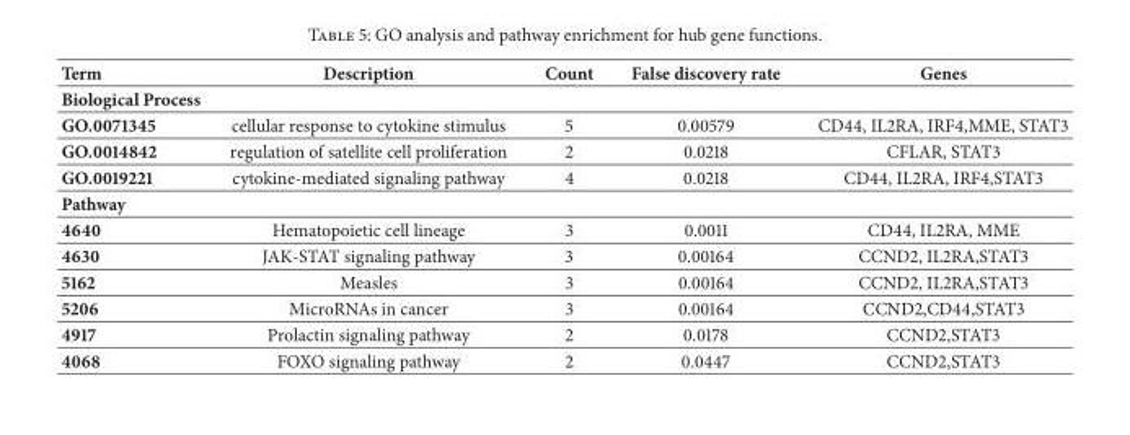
<table><thead><tr><td>Term</td><td>Description</td><td>Count</td><td>False discovery rate</td><td>Genes</td></tr></thead><tbody><tr><td colspan="5">Biological Process</td></tr><tr><td>GO.0071345</td><td>cellular response to cytokine stimulus</td><td>5</td><td>0.00579</td><td>CD44, IL2RA, IRF4,MME, STAT3</td></tr><tr><td>GO.0014842</td><td>regulation of satellite cell proliferation</td><td>2</td><td>0.0218</td><td>CFLAR, STAT3</td></tr><tr><td>GO.0019221</td><td>cytokine-mediated signaling pathway</td><td>4</td><td>0.0218</td><td>CD44, IL2RA, IRF4,STAT3</td></tr><tr><td colspan="5">Pathway</td></tr><tr><td>4640</td><td>Hematopoietic cell lineage</td><td>3</td><td>0.0011</td><td>CD44, IL2RA, MME</td></tr><tr><td>4630</td><td>JAK-STAT signaling pathway</td><td>3</td><td>0.00164</td><td>CCND2, IL2RA,STAT3</td></tr><tr><td>5162</td><td>Measles</td><td>3</td><td>0.00164</td><td>CCND2, IL2RA,STAT3</td></tr><tr><td>5206</td><td>MicroRNAs in cancer</td><td>3</td><td>0.00164</td><td>CCND2,CD44,STAT3</td></tr><tr><td>4917</td><td>Prolactin signaling pathway</td><td>2</td><td>0.0178</td><td>CCND2,STAT3</td></tr><tr><td>4068</td><td>FOXO signaling pathway</td><td>2</td><td>0.0447</td><td>CCND2,STAT3</td></tr></tbody></table>